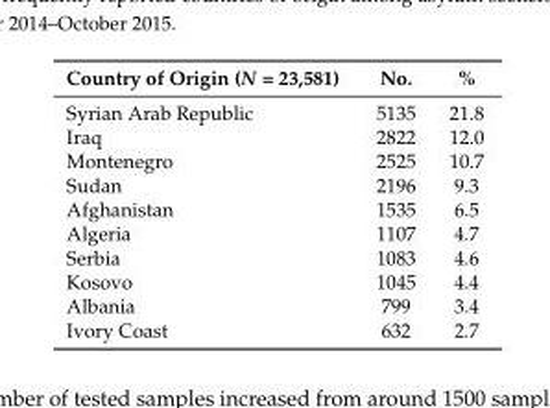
<table><thead><tr><td>Country of Origin (N = 23,581)</td><td>No.</td><td>%</td></tr></thead><tbody><tr><td>Syrian Arab Republic</td><td>5135</td><td>21.8</td></tr><tr><td>Iraq</td><td>2822</td><td>12.0</td></tr><tr><td>Montenegro</td><td>2525</td><td>10.7</td></tr><tr><td>Sudan</td><td>2196</td><td>9.3</td></tr><tr><td>Afghanistan</td><td>1535</td><td>6.5</td></tr><tr><td>Algeria</td><td>1107</td><td>4.7</td></tr><tr><td>Serbia</td><td>1083</td><td>4.6</td></tr><tr><td>Kosovo</td><td>1045</td><td>4.4</td></tr><tr><td>Albania</td><td>799</td><td>3.4</td></tr><tr><td>Ivory Coast</td><td>632</td><td>2.7</td></tr></tbody></table>